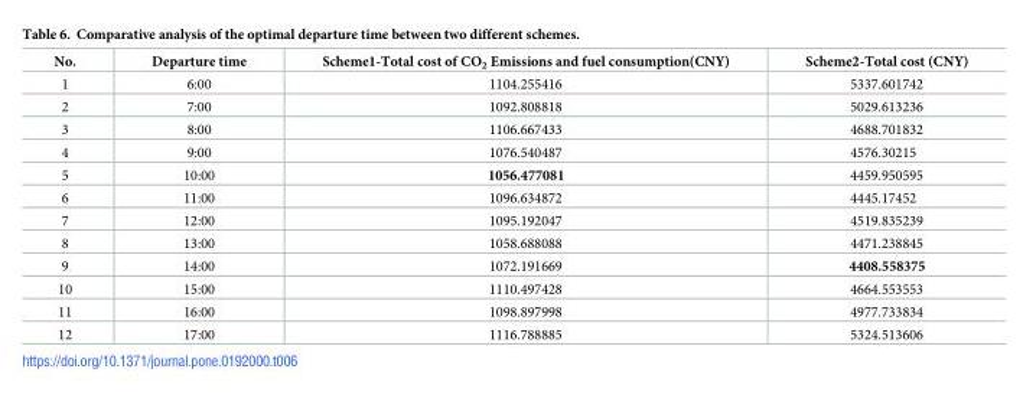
<table><thead><tr><td>No.</td><td>Departure time</td><td>Scheme1-Total cost of CO<sub>2</sub> Emissions and fuel consumption(CNY)</td><td>Scheme2-Total cost (CNY)</td></tr></thead><tbody><tr><td>1</td><td>6:00</td><td>1104.255416</td><td>5337.601742</td></tr><tr><td>2</td><td>7:00</td><td>1092.808818</td><td>5029.613236</td></tr><tr><td>3</td><td>8:00</td><td>1106.667433</td><td>4688.701832</td></tr><tr><td>4</td><td>9:00</td><td>1076.540487</td><td>4576.30215</td></tr><tr><td>5</td><td>10:00</td><td>1056.477081</td><td>4459.950595</td></tr><tr><td>6</td><td>11:00</td><td>1096.634872</td><td>4445.17452</td></tr><tr><td>7</td><td>12:00</td><td>1095.192047</td><td>4519.835239</td></tr><tr><td>8</td><td>13:00</td><td>1058.688088</td><td>4471.238845</td></tr><tr><td>9</td><td>14:00</td><td>1072.191669</td><td>4408.558375</td></tr><tr><td>10</td><td>15:00</td><td>1110.497428</td><td>4664.553553</td></tr><tr><td>11</td><td>16:00</td><td>1098.897998</td><td>4977.733834</td></tr><tr><td>12</td><td>17:00</td><td>1116.788885</td><td>5324.513606</td></tr></tbody></table>